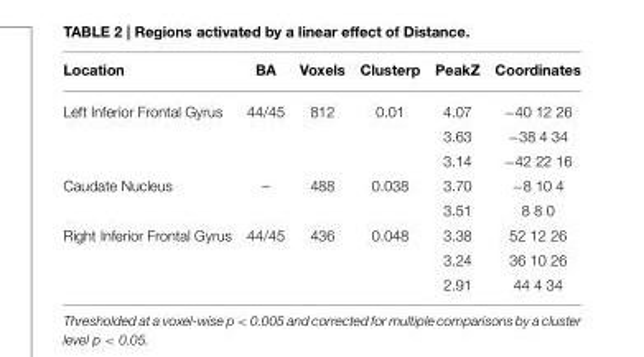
<table><thead><tr><td>Location</td><td>BA</td><td>Voxels</td><td>Clusterp</td><td>PeakZ</td><td>Coordinates</td></tr></thead><tbody><tr><td rowspan="3">Left Inferior Frontal Gyrus</td><td>44/45</td><td>812</td><td>0.01</td><td>4.07</td><td>−40 12 26</td></tr><tr><td></td><td></td><td></td><td>3.63</td><td>−38 4 34</td></tr><tr><td></td><td></td><td></td><td>3.14</td><td>−42 22 16</td></tr><tr><td rowspan="2">Caudate Nucleus</td><td>–</td><td>488</td><td>0.038</td><td>3.70</td><td>−8 10 4</td></tr><tr><td></td><td></td><td></td><td>3.51</td><td>8 8 0</td></tr><tr><td rowspan="3">Right Inferior Frontal Gyrus</td><td>44/45</td><td>436</td><td>0.048</td><td>3.38</td><td>52 12 26</td></tr><tr><td></td><td></td><td></td><td>3.24</td><td>36 10 26</td></tr><tr><td></td><td></td><td></td><td>2.91</td><td>44 4 34</td></tr></tbody></table>